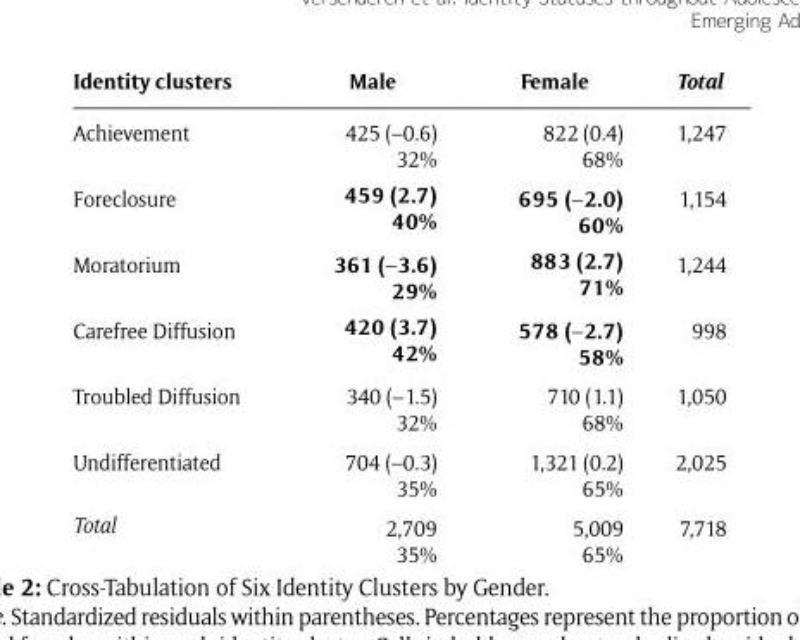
<table><thead><tr><td>Identity clusters</td><td>Male</td><td>Female</td><td>Total</td></tr></thead><tbody><tr><td>Achievement</td><td>425 (–0.6) 32%</td><td>822 (0.4) 68%</td><td>1,247</td></tr><tr><td>Foreclosure</td><td>459 (2.7) 40%</td><td>695 (–2.0) 60%</td><td>1,154</td></tr><tr><td>Moratorium</td><td>361 (–3.6) 29%</td><td>883 (2.7) 71%</td><td>1,244</td></tr><tr><td>Carefree Diffusion</td><td>420 (3.7) 42%</td><td>578 (–2.7) 58%</td><td>998</td></tr><tr><td>Troubled Diffusion</td><td>340 (–1.5) 32%</td><td>710 (1.1) 68%</td><td>1,050</td></tr><tr><td>Undifferentiated</td><td>704 (–0.3) 35%</td><td>1,321 (0.2) 65%</td><td>2,025</td></tr><tr><td>Total</td><td>2,709 35%</td><td>5,009 65%</td><td>7,718</td></tr></tbody></table>